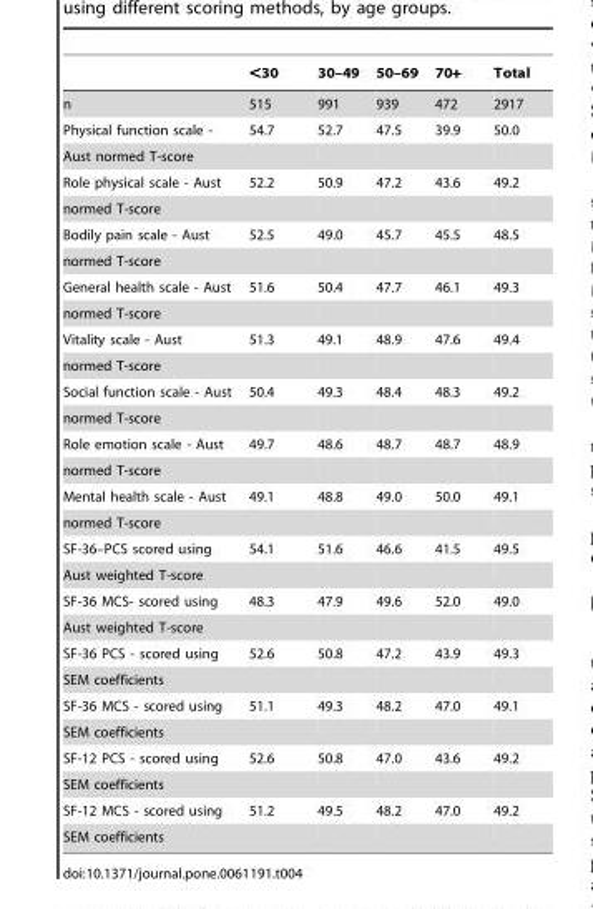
<table><thead><tr><td></td><td>&lt;30</td><td>30–49</td><td>50–69</td><td>70+</td><td>Total</td></tr></thead><tbody><tr><td>n</td><td>515</td><td>991</td><td>939</td><td>472</td><td>2917</td></tr><tr><td>Physical function scale -</td><td>54.7</td><td>52.7</td><td>47.5</td><td>39.9</td><td>50.0</td></tr><tr><td colspan="6">Aust normed T-score</td></tr><tr><td>Role physical scale - Aust</td><td>52.2</td><td>50.9</td><td>47.2</td><td>43.6</td><td>49.2</td></tr><tr><td colspan="6">normed T-score</td></tr><tr><td>Bodily pain scale - Aust</td><td>52.5</td><td>49.0</td><td>45.7</td><td>45.5</td><td>48.5</td></tr><tr><td colspan="6">normed T-score</td></tr><tr><td>General health scale - Aust</td><td>51.6</td><td>50.4</td><td>47.7</td><td>46.1</td><td>49.3</td></tr><tr><td colspan="6">normed T-score</td></tr><tr><td>Vitality scale - Aust</td><td>51.3</td><td>49.1</td><td>48.9</td><td>47.6</td><td>49.4</td></tr><tr><td colspan="6">normed T-score</td></tr><tr><td>Social function scale - Aust</td><td>50.4</td><td>49.3</td><td>48.4</td><td>48.3</td><td>49.2</td></tr><tr><td colspan="6">normed T-score</td></tr><tr><td>Role emotion scale - Aust</td><td>49.7</td><td>48.6</td><td>48.7</td><td>48.7</td><td>48.9</td></tr><tr><td colspan="6">normed T-score</td></tr><tr><td>Mental health scale - Aust</td><td>49.1</td><td>48.8</td><td>49.0</td><td>50.0</td><td>49.1</td></tr><tr><td colspan="6">normed T-score</td></tr><tr><td>SF-36–PCS scored using</td><td>54.1</td><td>51.6</td><td>46.6</td><td>41.5</td><td>49.5</td></tr><tr><td colspan="6">Aust weighted T-score</td></tr><tr><td>SF-36 MCS- scored using</td><td>48.3</td><td>47.9</td><td>49.6</td><td>52.0</td><td>49.0</td></tr><tr><td colspan="6">Aust weighted T-score</td></tr><tr><td>SF-36 PCS - scored using</td><td>52.6</td><td>50.8</td><td>47.2</td><td>43.9</td><td>49.3</td></tr><tr><td colspan="6">SEM coefficients</td></tr><tr><td>SF-36 MCS - scored using</td><td>51.1</td><td>49.3</td><td>48.2</td><td>47.0</td><td>49.1</td></tr><tr><td colspan="6">SEM coefficients</td></tr><tr><td>SF-12 PCS - scored using</td><td>52.6</td><td>50.8</td><td>47.0</td><td>43.6</td><td>49.2</td></tr><tr><td colspan="6">SEM coefficients</td></tr><tr><td>SF-12 MCS - scored using</td><td>51.2</td><td>49.5</td><td>48.2</td><td>47.0</td><td>49.2</td></tr><tr><td>SEM coefficients</td><td></td><td></td><td></td><td></td><td></td></tr></tbody></table>